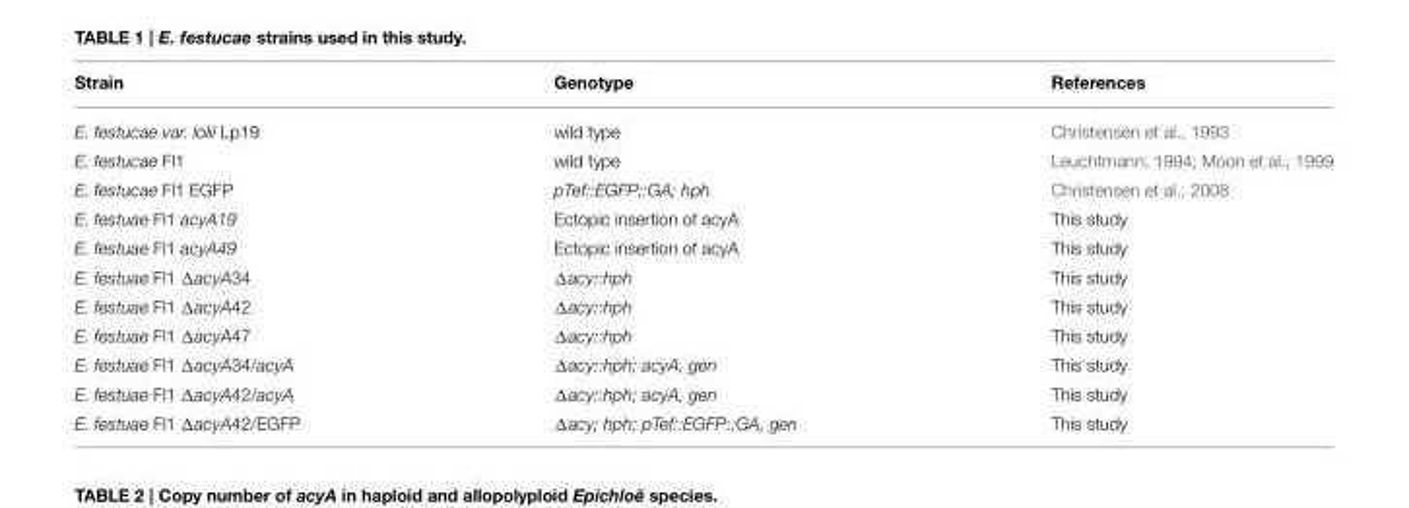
<table><thead><tr><td>Strain</td><td>Genotype</td><td>References</td></tr></thead><tbody><tr><td>E. festucae var. lolii Lp19</td><td>wild type</td><td>Christensen et al., 1993</td></tr><tr><td>E. festucae Fl1</td><td>wild type</td><td>Leuchtmann, 1994; Moon et al., 1999</td></tr><tr><td>E. festucae Fl1 EGFP</td><td>pTef::EGFP::GA; hph</td><td>Christensen et al., 2008</td></tr><tr><td>E. festuae Fl1 acyA19</td><td>Ectopic insertion of acyA</td><td>This study</td></tr><tr><td>E. festuae Fl1 acyA49</td><td>Ectopic insertion of acyA</td><td>This study</td></tr><tr><td>E. festuae Fl1 ΔacyA34</td><td>Δacy::hph</td><td>This study</td></tr><tr><td>E. festuae Fl1 ΔacyA42</td><td>Δacy::hph</td><td>This study</td></tr><tr><td>E. festuae Fl1 ΔacyA47</td><td>Δacy::hph</td><td>This study</td></tr><tr><td>E. festuae Fl1 ΔacyA34/acyA</td><td>Δacy::hph; acyA, gen</td><td>This study</td></tr><tr><td>E. festuae Fl1 ΔacyA42/acyA</td><td>Δacy::hph; acyA, gen</td><td>This study</td></tr><tr><td>E. festuae Fl1 ΔacyA42/EGFP</td><td>Δacy; hph; pTef::EGFP::GA, gen</td><td>This study</td></tr></tbody></table>